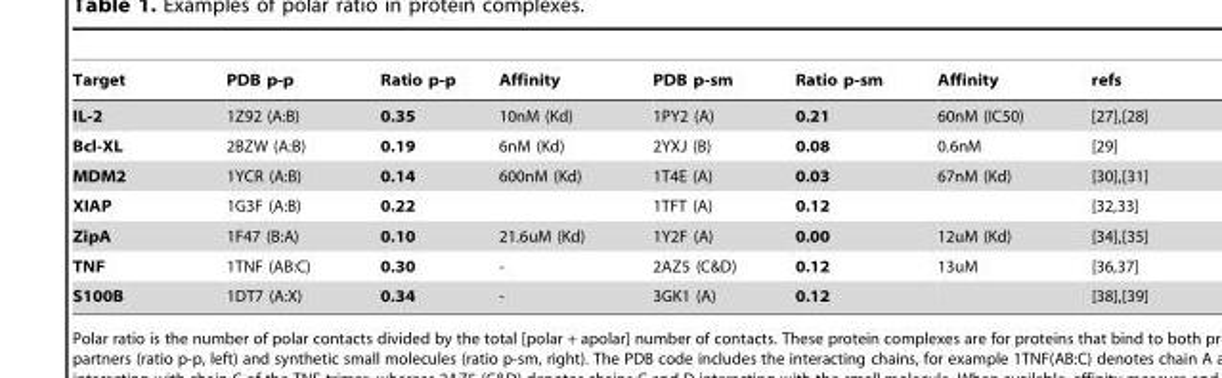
<table><thead><tr><td>Target</td><td>PDB p-p</td><td>Ratio p-p</td><td>Affinity</td><td>PDB p-sm</td><td>Ratio p-sm</td><td>Affinity</td><td>refs</td></tr></thead><tbody><tr><td>IL-2</td><td>1Z92 (A:B)</td><td>0.35</td><td>10nM (Kd)</td><td>1PY2 (A)</td><td>0.21</td><td>60nM (IC50)</td><td>[27],[28]</td></tr><tr><td>Bcl-XL</td><td>2BZW (A:B)</td><td>0.19</td><td>6nM (Kd)</td><td>2YXJ (B)</td><td>0.08</td><td>0.6nM</td><td>[29]</td></tr><tr><td>MDM2</td><td>1YCR (A:B)</td><td>0.14</td><td>600nM (Kd)</td><td>1T4E (A)</td><td>0.03</td><td>67nM (Kd)</td><td>[30],[31]</td></tr><tr><td>XIAP</td><td>1G3F (A:B)</td><td>0.22</td><td></td><td>1TFT (A)</td><td>0.12</td><td></td><td>[32,33]</td></tr><tr><td>ZipA</td><td>1F47 (B:A)</td><td>0.10</td><td>21.6uM (Kd)</td><td>1Y2F (A)</td><td>0.00</td><td>12uM (Kd)</td><td>[34],[35]</td></tr><tr><td>TNF</td><td>1TNF (AB:C)</td><td>0.30</td><td>-</td><td>2AZ5 (C&amp;D)</td><td>0.12</td><td>13uM</td><td>[36,37]</td></tr><tr><td>S100B</td><td>1DT7 (A:X)</td><td>0.34</td><td>-</td><td>3GK1 (A)</td><td>0.12</td><td></td><td>[38],[39]</td></tr></tbody></table>